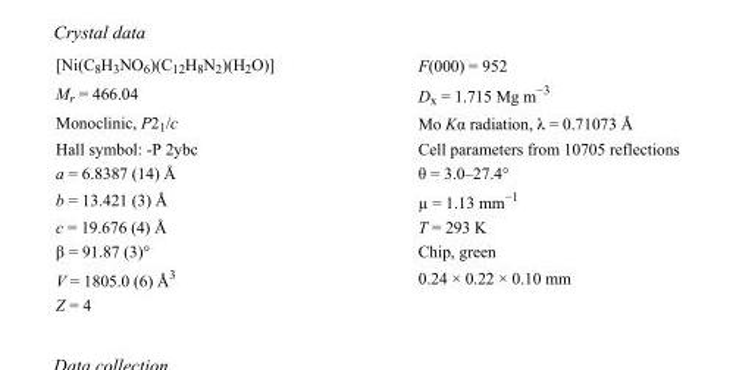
<table><tbody><tr><td>[Ni(C<sub>8</sub>H<sub>3</sub>NO<sub>6</sub>)(C<sub>12</sub>H<sub>8</sub>N<sub>2</sub>)(H<sub>2</sub>O)]</td><td>F(000) = 952</td></tr><tr><td>M<sub>r</sub> = 466.04</td><td>D<sub>x</sub> = 1.715 Mg m<sup>−3</sup></td></tr><tr><td>Monoclinic, P2<sub>1</sub>/c</td><td>Mo Kα radiation, λ = 0.71073 Å</td></tr><tr><td>Hall symbol: -P 2ybc</td><td>Cell parameters from 10705 reflections</td></tr><tr><td>a = 6.8387 (14) Å</td><td>θ = 3.0–27.4°</td></tr><tr><td>b = 13.421 (3) Å</td><td>µ = 1.13 mm<sup>−1</sup></td></tr><tr><td>c = 19.676 (4) Å</td><td>T = 293 K</td></tr><tr><td>β = 91.87 (3)°</td><td>Chip, green</td></tr><tr><td>V = 1805.0 (6) Å<sup>3</sup></td><td>0.24 × 0.22 × 0.10 mm</td></tr><tr><td>Z = 4</td><td></td></tr></tbody></table>